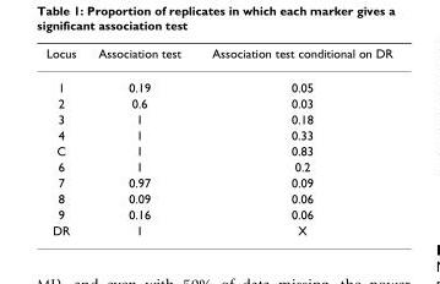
<table><thead><tr><td>Locus</td><td>Association test</td><td>Association test conditional on DR</td></tr></thead><tbody><tr><td>1</td><td>0.19</td><td>0.05</td></tr><tr><td>2</td><td>0.6</td><td>0.03</td></tr><tr><td>3</td><td>1</td><td>0.18</td></tr><tr><td>4</td><td>1</td><td>0.33</td></tr><tr><td>C</td><td>1</td><td>0.83</td></tr><tr><td>6</td><td>1</td><td>0.2</td></tr><tr><td>7</td><td>0.97</td><td>0.09</td></tr><tr><td>8</td><td>0.09</td><td>0.06</td></tr><tr><td>9</td><td>0.16</td><td>0.06</td></tr><tr><td>DR</td><td>1</td><td>X</td></tr></tbody></table>